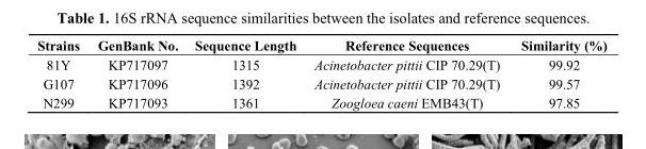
<table><thead><tr><td>Strains</td><td>GenBank No.</td><td>Sequence Length</td><td>Reference Sequences</td><td>Similarity (%)</td></tr></thead><tbody><tr><td>81Y</td><td>KP717097</td><td>1315</td><td>Acinetobacter pittii CIP 70.29(T)</td><td>99.92</td></tr><tr><td>G107</td><td>KP717096</td><td>1392</td><td>Acinetobacter pittii CIP 70.29(T)</td><td>99.57</td></tr><tr><td>N299</td><td>KP717093</td><td>1361</td><td>Zoogloea caeni EMB43(T)</td><td>97.85</td></tr></tbody></table>